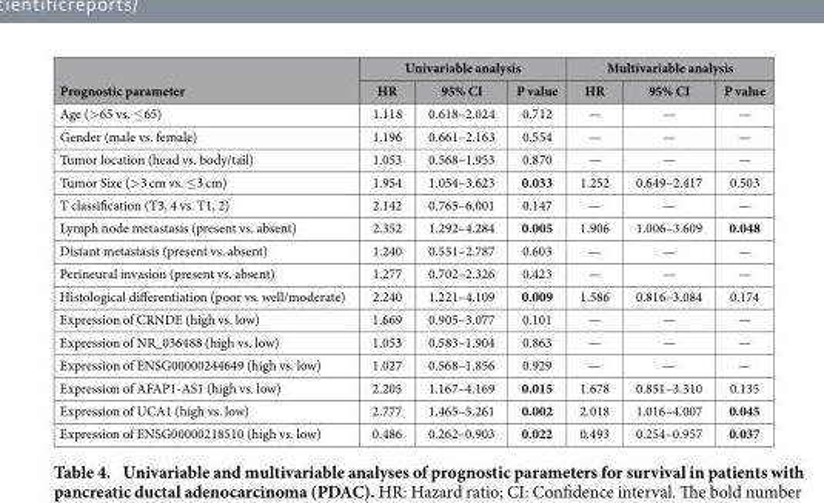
<table><thead><tr><td rowspan="2">Prognostic parameter</td><td colspan="3">Univariable analysis</td><td colspan="3">Multivariable analysis</td></tr><tr><td>HR</td><td>95% CI</td><td>P value</td><td>HR</td><td>95% CI</td><td>P value</td></tr></thead><tbody><tr><td>Age (&gt; 65 vs. ≤ 65)</td><td>1.118</td><td>0.618–2.024</td><td>0.712</td><td>—</td><td>—</td><td>—</td></tr><tr><td>Gender (male vs. female)</td><td>1.196</td><td>0.661–2.163</td><td>0.554</td><td>—</td><td>—</td><td>—</td></tr><tr><td>Tumor location (head vs. body/tail)</td><td>1.053</td><td>0.568–1.953</td><td>0.870</td><td>—</td><td>—</td><td>—</td></tr><tr><td>Tumor Size (&gt; 3 cm vs. ≤ 3 cm)</td><td>1.954</td><td>1.054–3.623</td><td>0.033</td><td>1.252</td><td>0.649–2.417</td><td>0.503</td></tr><tr><td>T classification (T3, 4 vs. T1, 2)</td><td>2.142</td><td>0.765–6.001</td><td>0.147</td><td>—</td><td>—</td><td>—</td></tr><tr><td>Lymph node metastasis (present vs. absent)</td><td>2.352</td><td>1.292–4.284</td><td>0.005</td><td>1.906</td><td>1.006–3.609</td><td>0.048</td></tr><tr><td>Distant metastasis (present vs. absent)</td><td>1.240</td><td>0.551–2.787</td><td>0.603</td><td>—</td><td>—</td><td>—</td></tr><tr><td>Perineural invasion (present vs. absent)</td><td>1.277</td><td>0.702–2.326</td><td>0.423</td><td>—</td><td>—</td><td>—</td></tr><tr><td>Histological differentiation (poor vs. well/moderate)</td><td>2.240</td><td>1.221–4.109</td><td>0.009</td><td>1.586</td><td>0.816–3.084</td><td>0.174</td></tr><tr><td>Expression of CRNDE (high vs. low)</td><td>1.669</td><td>0.905–3.077</td><td>0.101</td><td>—</td><td>—</td><td>—</td></tr><tr><td>Expression of NR_036488 (high vs. low)</td><td>1.053</td><td>0.583–1.904</td><td>0.863</td><td>—</td><td>—</td><td>—</td></tr><tr><td>Expression of ENSG00000244649 (high vs. low)</td><td>1.027</td><td>0.568–1.856</td><td>0.929</td><td>—</td><td>—</td><td>—</td></tr><tr><td>Expression of AFAP1-AS1 (high vs. low)</td><td>2.205</td><td>1.167–4.169</td><td>0.015</td><td>1.678</td><td>0.851–3.310</td><td>0.135</td></tr><tr><td>Expression of UCA1 (high vs. low)</td><td>2.777</td><td>1.465–5.261</td><td>0.002</td><td>2.018</td><td>1.016–4.007</td><td>0.045</td></tr><tr><td>Expression of ENSG00000218510 (high vs. low)</td><td>0.486</td><td>0.262–0.903</td><td>0.022</td><td>0.493</td><td>0.254–0.957</td><td>0.037</td></tr></tbody></table>